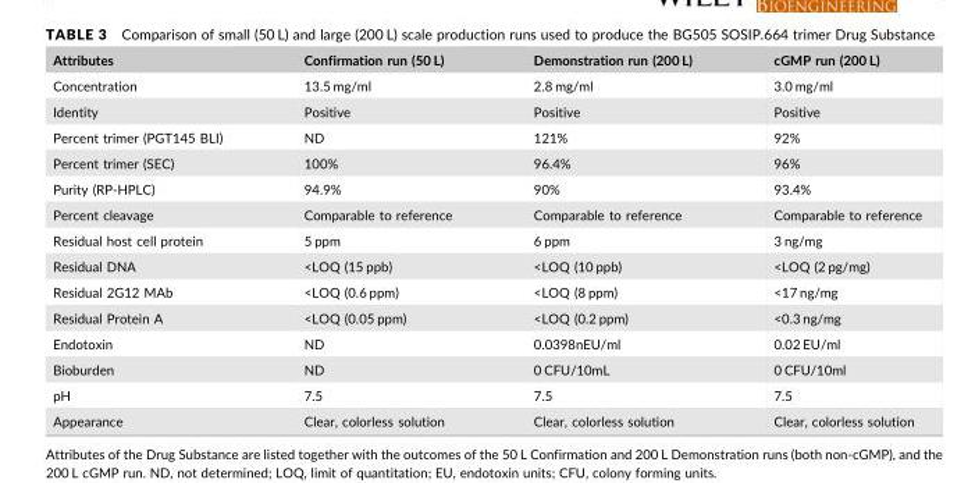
<table><thead><tr><td>Attributes</td><td>Confirmation run (50 L)</td><td>Demonstration run (200 L)</td><td>cGMP run (200 L)</td></tr></thead><tbody><tr><td>Concentration</td><td>13.5 mg/ml</td><td>2.8 mg/ml</td><td>3.0 mg/ml</td></tr><tr><td>Identity</td><td>Positive</td><td>Positive</td><td>Positive</td></tr><tr><td>Percent trimer (PGT145 BLI)</td><td>ND</td><td>121%</td><td>92%</td></tr><tr><td>Percent trimer (SEC)</td><td>100%</td><td>96.4%</td><td>96%</td></tr><tr><td>Purity (RP-HPLC)</td><td>94.9%</td><td>90%</td><td>93.4%</td></tr><tr><td>Percent cleavage</td><td>Comparable to reference</td><td>Comparable to reference</td><td>Comparable to reference</td></tr><tr><td>Residual host cell protein</td><td>5 ppm</td><td>6 ppm</td><td>3 ng/mg</td></tr><tr><td>Residual DNA</td><td>&lt;LOQ (15 ppb)</td><td>&lt;LOQ (10 ppb)</td><td>&lt;LOQ (2 pg/mg)</td></tr><tr><td>Residual 2G12 MAb</td><td>&lt;LOQ (0.6 ppm)</td><td>&lt;LOQ (8 ppm)</td><td>&lt;17 ng/mg</td></tr><tr><td>Residual Protein A</td><td>&lt;LOQ (0.05 ppm)</td><td>&lt;LOQ (0.2 ppm)</td><td>&lt;0.3 ng/mg</td></tr><tr><td>Endotoxin</td><td>ND</td><td>0.0398nEU/ml</td><td>0.02 EU/ml</td></tr><tr><td>Bioburden</td><td>ND</td><td>0 CFU/10mL</td><td>0 CFU/10ml</td></tr><tr><td>pH</td><td>7.5</td><td>7.5</td><td>7.5</td></tr><tr><td>Appearance</td><td>Clear, colorless solution</td><td>Clear, colorless solution</td><td>Clear, colorless solution</td></tr></tbody></table>